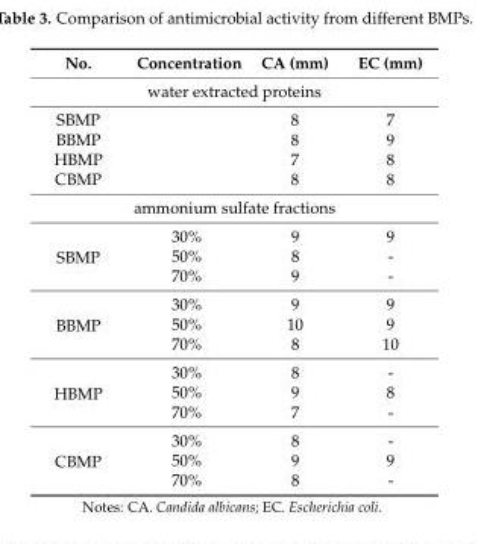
<table><thead><tr><td>No.</td><td>Concentration</td><td>CA (mm)</td><td>EC (mm)</td></tr></thead><tbody><tr><td colspan="4">water extracted proteins</td></tr><tr><td>SBMP</td><td></td><td>8</td><td>7</td></tr><tr><td>BBMP</td><td></td><td>8</td><td>9</td></tr><tr><td>HBMP</td><td></td><td>7</td><td>8</td></tr><tr><td>CBMP</td><td></td><td>8</td><td>8</td></tr><tr><td colspan="4">ammonium sulfate fractions</td></tr><tr><td rowspan="3">SBMP</td><td>30%</td><td>9</td><td>9</td></tr><tr><td>50%</td><td>8</td><td>-</td></tr><tr><td>70%</td><td>9</td><td>-</td></tr><tr><td rowspan="3">BBMP</td><td>30%</td><td>9</td><td>9</td></tr><tr><td>50%</td><td>10</td><td>9</td></tr><tr><td>70%</td><td>8</td><td>10</td></tr><tr><td rowspan="3">HBMP</td><td>30%</td><td>8</td><td>-</td></tr><tr><td>50%</td><td>9</td><td>8</td></tr><tr><td>70%</td><td>7</td><td>-</td></tr><tr><td rowspan="3">CBMP</td><td>30%</td><td>8</td><td>-</td></tr><tr><td>50%</td><td>9</td><td>9</td></tr><tr><td>70%</td><td>8</td><td>-</td></tr></tbody></table>